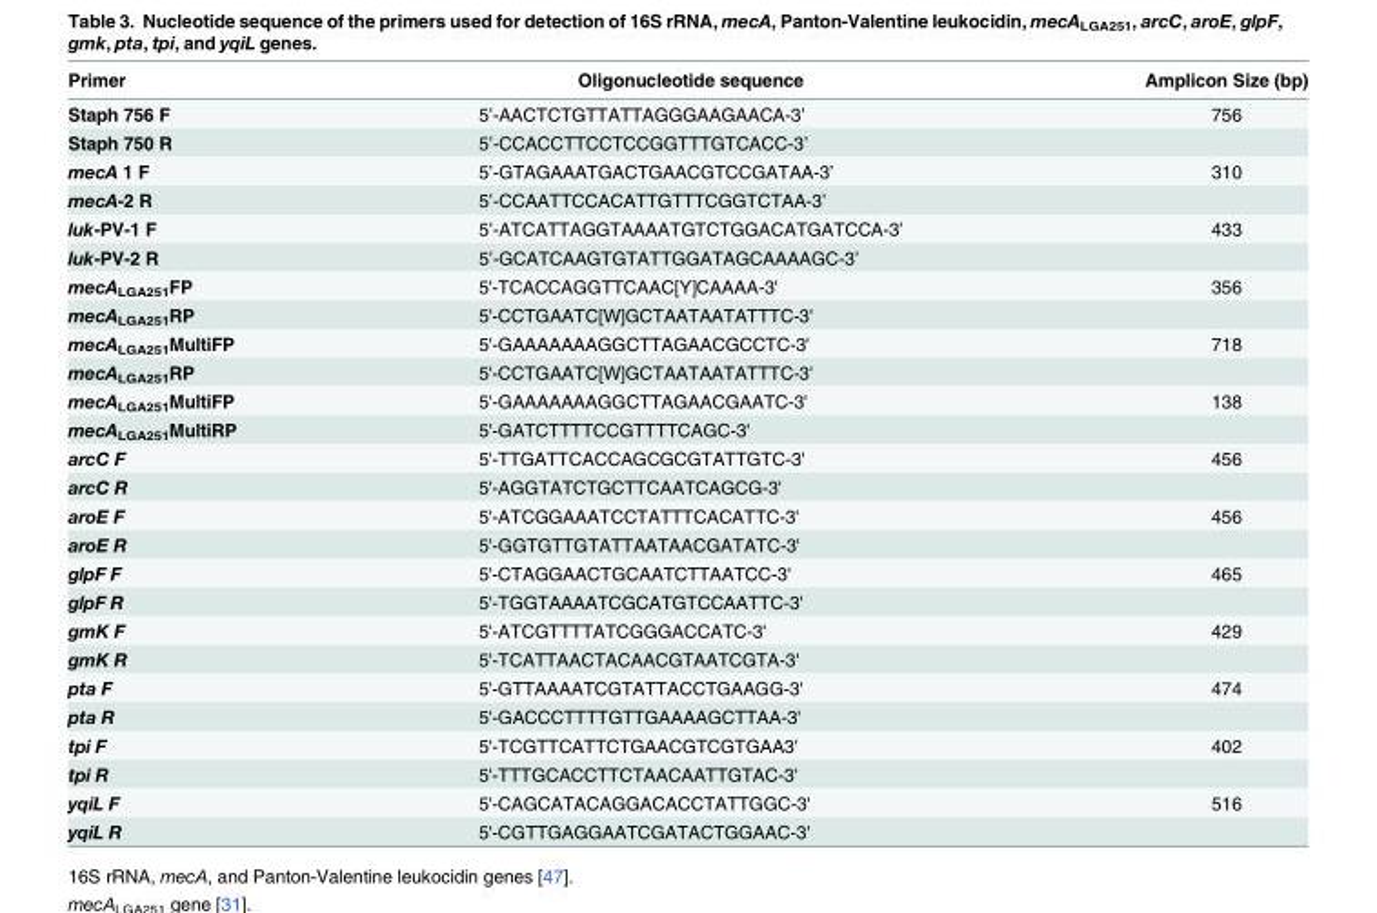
<table><thead><tr><td>Primer</td><td>Oligonucleotide sequence</td><td>Amplicon Size (bp)</td></tr></thead><tbody><tr><td>Staph 756 F</td><td>5’-AACTCTGTTATTAGGGAAGAACA-3’</td><td>756</td></tr><tr><td>Staph 750 R</td><td>5’-CCACCTTCCTCCGGTTTGTCACC-3’</td><td></td></tr><tr><td>mecA 1 F</td><td>5’-GTAGAAATGACTGAACGTCCGATAA-3’</td><td>310</td></tr><tr><td>mecA-2 R</td><td>5’-CCAATTCCACATTGTTTCGGTCTAA-3’</td><td></td></tr><tr><td>luk-PV-1 F</td><td>5’-ATCATTAGGTAAAATGTCTGGACATGATCCA-3’</td><td>433</td></tr><tr><td>luk-PV-2 R</td><td>5’-GCATCAAGTGTATTGGATAGCAAAAGC-3’</td><td></td></tr><tr><td>mecA<sub>LGA251</sub>FP</td><td>5&#x27;-TCACCAGGTTCAAC[Y]CAAAA-3&#x27;</td><td>356</td></tr><tr><td>mecA<sub>LGA251</sub>RP</td><td>5&#x27;-CCTGAATC[W]GCTAATAATATTTC-3&#x27;</td><td></td></tr><tr><td>mecA<sub>LGA251</sub>MultiFP</td><td>5&#x27;-GAAAAAAAGGCTTAGAACGCCTC-3&#x27;</td><td>718</td></tr><tr><td>mecA<sub>LGA251</sub>RP</td><td>5&#x27;-CCTGAATC[W]GCTAATAATATTTC-3&#x27;</td><td></td></tr><tr><td>mecA<sub>LGA251</sub>MultiFP</td><td>5&#x27;-GAAAAAAAGGCTTAGAACGAATC-3&#x27;</td><td>138</td></tr><tr><td>mecA<sub>LGA251</sub>MultiRP</td><td>5&#x27;-GATCTTTTCCGTTTTCAGC-3&#x27;</td><td></td></tr><tr><td>arcC F</td><td>5&#x27;-TTGATTCACCAGCGCGTATTGTC-3&#x27;</td><td>456</td></tr><tr><td>arcC R</td><td>5&#x27;-AGGTATCTGCTTCAATCAGCG-3&#x27;</td><td></td></tr><tr><td>aroE F</td><td>5&#x27;-ATCGGAAATCCTATTTCACATTC-3&#x27;</td><td>456</td></tr><tr><td>aroE R</td><td>5&#x27;-GGTGTTGTATTAATAACGATATC-3&#x27;</td><td></td></tr><tr><td>glpF F</td><td>5&#x27;-CTAGGAACTGCAATCTTAATCC-3&#x27;</td><td>465</td></tr><tr><td>glpF R</td><td>5&#x27;-TGGTAAAATCGCATGTCCAATTC-3&#x27;</td><td></td></tr><tr><td>gmK F</td><td>5&#x27;-ATCGTTTTATCGGGACCATC-3&#x27;</td><td>429</td></tr><tr><td>gmK R</td><td>5&#x27;-TCATTAACTACAACGTAATCGTA-3&#x27;</td><td></td></tr><tr><td>pta F</td><td>5&#x27;-GTTAAAATCGTATTACCTGAAGG-3&#x27;</td><td>474</td></tr><tr><td>pta R</td><td>5&#x27;-GACCCTTTTGTTGAAAAGCTTAA-3&#x27;</td><td></td></tr><tr><td>tpi F</td><td>5&#x27;-TCGTTCATTCTGAACGTCGTGAA3&#x27;</td><td>402</td></tr><tr><td>tpi R</td><td>5&#x27;-TTTGCACCTTCTAACAATTGTAC-3&#x27;</td><td></td></tr><tr><td>yqiL F</td><td>5&#x27;-CAGCATACAGGACACCTATTGGC-3&#x27;</td><td>516</td></tr><tr><td>yqiL R</td><td>5&#x27;-CGTTGAGGAATCGATACTGGAAC-3&#x27;</td><td></td></tr></tbody></table>